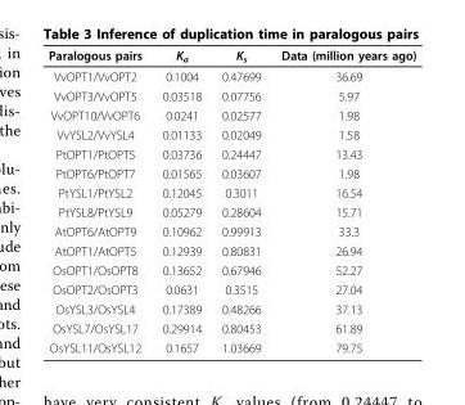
<table><thead><tr><td>Paralogous pairs</td><td>K<sub>a</sub></td><td>K<sub>s</sub></td><td>Data (million years ago)</td></tr></thead><tbody><tr><td>VvOPT1/VvOPT2</td><td>0.1004</td><td>0.47699</td><td>36.69</td></tr><tr><td>VvOPT3/VvOPT5</td><td>0.03518</td><td>0.07756</td><td>5.97</td></tr><tr><td>VvOPT10/VvOPT6</td><td>0.0241</td><td>0.02577</td><td>1.98</td></tr><tr><td>VvYSL2/VvYSL4</td><td>0.01133</td><td>0.02049</td><td>1.58</td></tr><tr><td>PtOPT1/PtOPT5</td><td>0.03736</td><td>0.24447</td><td>13.43</td></tr><tr><td>PtOPT6/PtOPT7</td><td>0.01565</td><td>0.03607</td><td>1.98</td></tr><tr><td>PtYSL1/PtYSL2</td><td>0.12045</td><td>0.3011</td><td>16.54</td></tr><tr><td>PtYSL8/PtYSL9</td><td>0.05279</td><td>0.28604</td><td>15.71</td></tr><tr><td>AtOPT6/AtOPT9</td><td>0.10962</td><td>0.99913</td><td>33.3</td></tr><tr><td>AtOPT1/AtOPT5</td><td>0.12939</td><td>0.80831</td><td>26.94</td></tr><tr><td>OsOPT1/OsOPT8</td><td>0.13652</td><td>0.67946</td><td>52.27</td></tr><tr><td>OsOPT2/OsOPT3</td><td>0.0631</td><td>0.3515</td><td>27.04</td></tr><tr><td>OsYSL3/OsYSL4</td><td>0.17389</td><td>0.48266</td><td>37.13</td></tr><tr><td>OsYSL7/OsYSL17</td><td>0.29914</td><td>0.80453</td><td>61.89</td></tr><tr><td>OsYSL11/OsYSL12</td><td>0.1657</td><td>1.03669</td><td>79.75</td></tr></tbody></table>